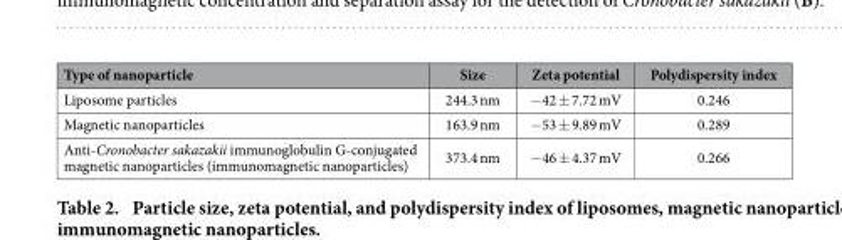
<table><thead><tr><td>Type of nanoparticle</td><td>Size</td><td>Zeta potential</td><td>Polydispersity index</td></tr></thead><tbody><tr><td>Liposome particles</td><td>244.3 nm</td><td>− 42 ± 7.72 mV</td><td>0.246</td></tr><tr><td>Magnetic nanoparticles</td><td>163.9 nm</td><td>− 53 ± 9.89 mV</td><td>0.289</td></tr><tr><td>Anti-Cronobacter sakazakii immunoglobulin G-conjugated magnetic nanoparticles (immunomagnetic nanoparticles)</td><td>373.4 nm</td><td>− 46 ± 4.37 mV</td><td>0.266</td></tr></tbody></table>